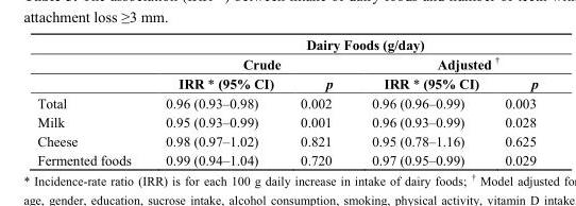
<table><thead><tr><td rowspan="3"></td><td colspan="4">Dairy Foods (g/day)</td></tr><tr><td colspan="2">Crude</td><td colspan="2">Adjusted <sup>†</sup></td></tr><tr><td>IRR * (95% CI)</td><td>p</td><td>IRR * (95% CI)</td><td>p</td></tr></thead><tbody><tr><td>Total</td><td>0.96 (0.93–0.98)</td><td>0.002</td><td>0.96 (0.96–0.99)</td><td>0.003</td></tr><tr><td>Milk</td><td>0.95 (0.93–0.99)</td><td>0.001</td><td>0.96 (0.93–0.99)</td><td>0.028</td></tr><tr><td>Cheese</td><td>0.98 (0.97–1.02)</td><td>0.821</td><td>0.95 (0.78–1.16)</td><td>0.625</td></tr><tr><td>Fermented foods</td><td>0.99 (0.94–1.04)</td><td>0.720</td><td>0.97 (0.95–0.99)</td><td>0.029</td></tr></tbody></table>